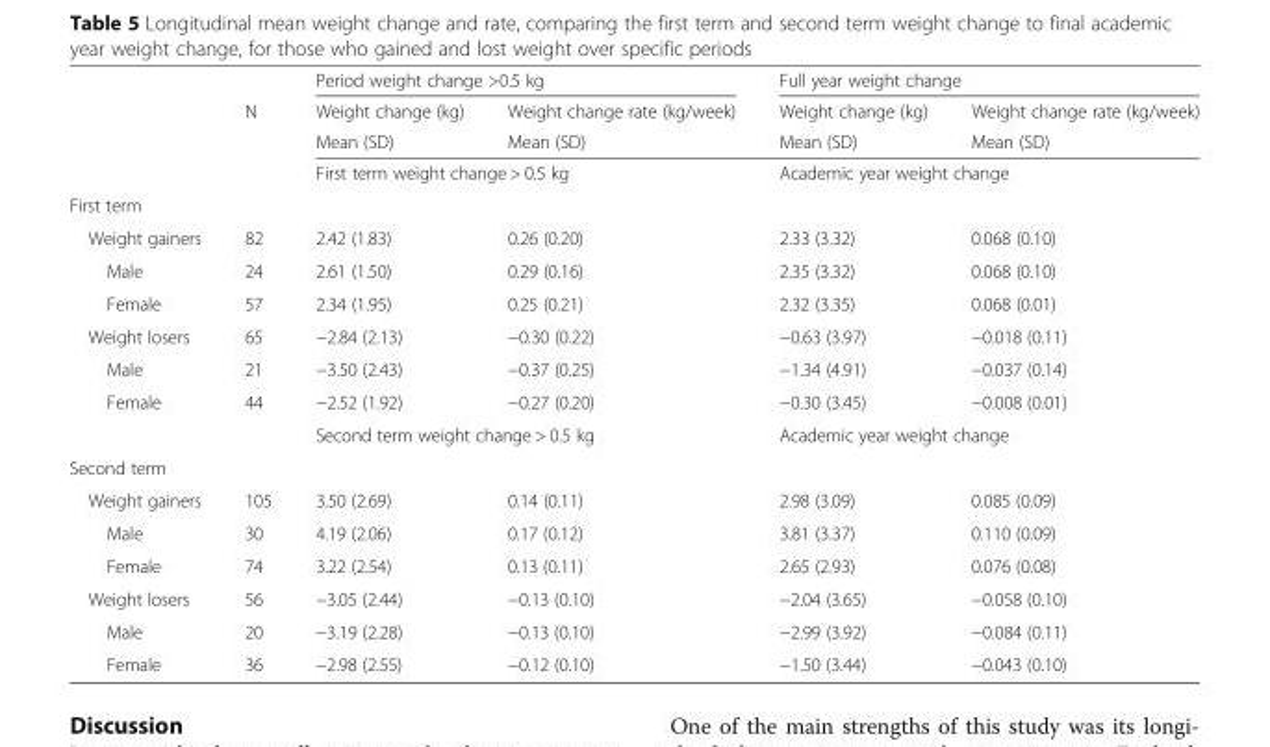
<table><thead><tr><td rowspan="3"></td><td rowspan="3">N</td><td colspan="2">Period weight change &gt;0.5 kg</td><td colspan="2">Full year weight change</td></tr><tr><td rowspan="2">Weight change (kg) Mean (SD)</td><td rowspan="2">Weight change rate (kg/week) Mean (SD)</td><td rowspan="2">Weight change (kg) Mean (SD)</td><td rowspan="2">Weight change rate (kg/week) Mean (SD)</td></tr><tr></tr></thead><tbody><tr><td></td><td></td><td colspan="2">First term weight change &gt; 0.5 kg</td><td colspan="2">Academic year weight change</td></tr><tr><td colspan="6">First term</td></tr><tr><td>Weight gainers</td><td>82</td><td>2.42 (1.83)</td><td>0.26 (0.20)</td><td>2.33 (3.32)</td><td>0.068 (0.10)</td></tr><tr><td>Male</td><td>24</td><td>2.61 (1.50)</td><td>0.29 (0.16)</td><td>2.35 (3.32)</td><td>0.068 (0.10)</td></tr><tr><td>Female</td><td>57</td><td>2.34 (1.95)</td><td>0.25 (0.21)</td><td>2.32 (3.35)</td><td>0.068 (0.01)</td></tr><tr><td>Weight losers</td><td>65</td><td>−2.84 (2.13)</td><td>−0.30 (0.22)</td><td>−0.63 (3.97)</td><td>−0.018 (0.11)</td></tr><tr><td>Male</td><td>21</td><td>−3.50 (2.43)</td><td>−0.37 (0.25)</td><td>−1.34 (4.91)</td><td>−0.037 (0.14)</td></tr><tr><td rowspan="2">Female</td><td>44</td><td>−2.52 (1.92)</td><td>−0.27 (0.20)</td><td>−0.30 (3.45)</td><td>−0.008 (0.01)</td></tr><tr><td></td><td colspan="2">Second term weight change &gt; 0.5 kg</td><td colspan="2">Academic year weight change</td></tr><tr><td colspan="6">Second term</td></tr><tr><td>Weight gainers</td><td>105</td><td>3.50 (2.69)</td><td>0.14 (0.11)</td><td>2.98 (3.09)</td><td>0.085 (0.09)</td></tr><tr><td>Male</td><td>30</td><td>4.19 (2.06)</td><td>0.17 (0.12)</td><td>3.81 (3.37)</td><td>0.110 (0.09)</td></tr><tr><td>Female</td><td>74</td><td>3.22 (2.54)</td><td>0.13 (0.11)</td><td>2.65 (2.93)</td><td>0.076 (0.08)</td></tr><tr><td>Weight losers</td><td>56</td><td>−3.05 (2.44)</td><td>−0.13 (0.10)</td><td>−2.04 (3.65)</td><td>−0.058 (0.10)</td></tr><tr><td>Male</td><td>20</td><td>−3.19 (2.28)</td><td>−0.13 (0.10)</td><td>−2.99 (3.92)</td><td>−0.084 (0.11)</td></tr><tr><td>Female</td><td>36</td><td>−2.98 (2.55)</td><td>−0.12 (0.10)</td><td>−1.50 (3.44)</td><td>−0.043 (0.10)</td></tr></tbody></table>